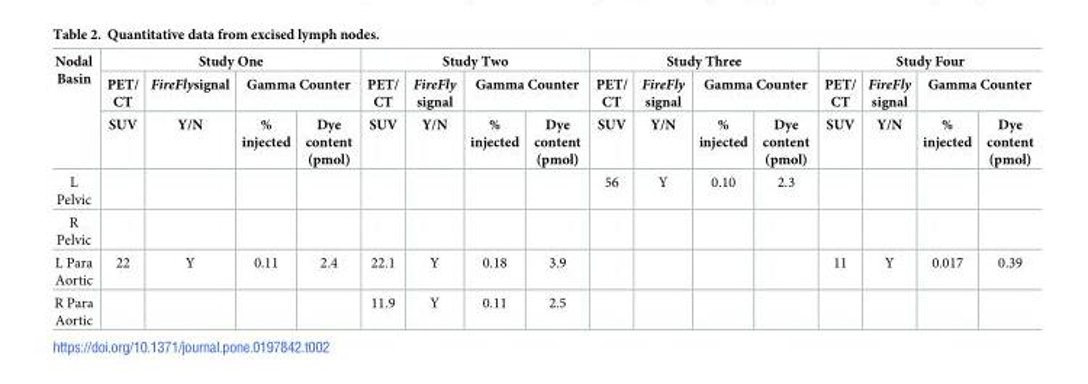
<table><thead><tr><td rowspan="3">Nodal Basin</td><td colspan="4">Study One</td><td colspan="4">Study Two</td><td colspan="4">Study Three</td><td colspan="4">Study Four</td></tr><tr><td rowspan="2">PET/ CT SUV</td><td rowspan="2">FireFlysignal Y/N</td><td colspan="2">Gamma Counter</td><td rowspan="2">PET/ CT SUV</td><td rowspan="2">FireFly signal Y/N</td><td colspan="2">Gamma Counter</td><td rowspan="2">PET/ CT SUV</td><td rowspan="2">FireFly signal Y/N</td><td colspan="2">Gamma Counter</td><td rowspan="2">PET/ CT SUV</td><td rowspan="2">FireFly signal Y/N</td><td colspan="2">Gamma Counter</td></tr><tr><td>% injected</td><td>Dye content (pmol)</td><td>% injected</td><td>Dye content (pmol)</td><td>% injected</td><td>Dye content (pmol)</td><td>% injected</td><td>Dye content (pmol)</td></tr></thead><tbody><tr><td>L Pelvic</td><td></td><td></td><td></td><td></td><td></td><td></td><td></td><td></td><td>56</td><td>Y</td><td>0.10</td><td>2.3</td><td></td><td></td><td></td><td></td></tr><tr><td colspan="17">R Pelvic</td></tr><tr><td>L Para Aortic</td><td>22</td><td>Y</td><td>0.11</td><td>2.4</td><td>22.1</td><td>Y</td><td>0.18</td><td>3.9</td><td></td><td></td><td></td><td></td><td>11</td><td>Y</td><td>0.017</td><td>0.39</td></tr><tr><td>R Para Aortic</td><td></td><td></td><td></td><td></td><td>11.9</td><td>Y</td><td>0.11</td><td>2.5</td><td></td><td></td><td></td><td></td><td></td><td></td><td></td><td></td></tr></tbody></table>